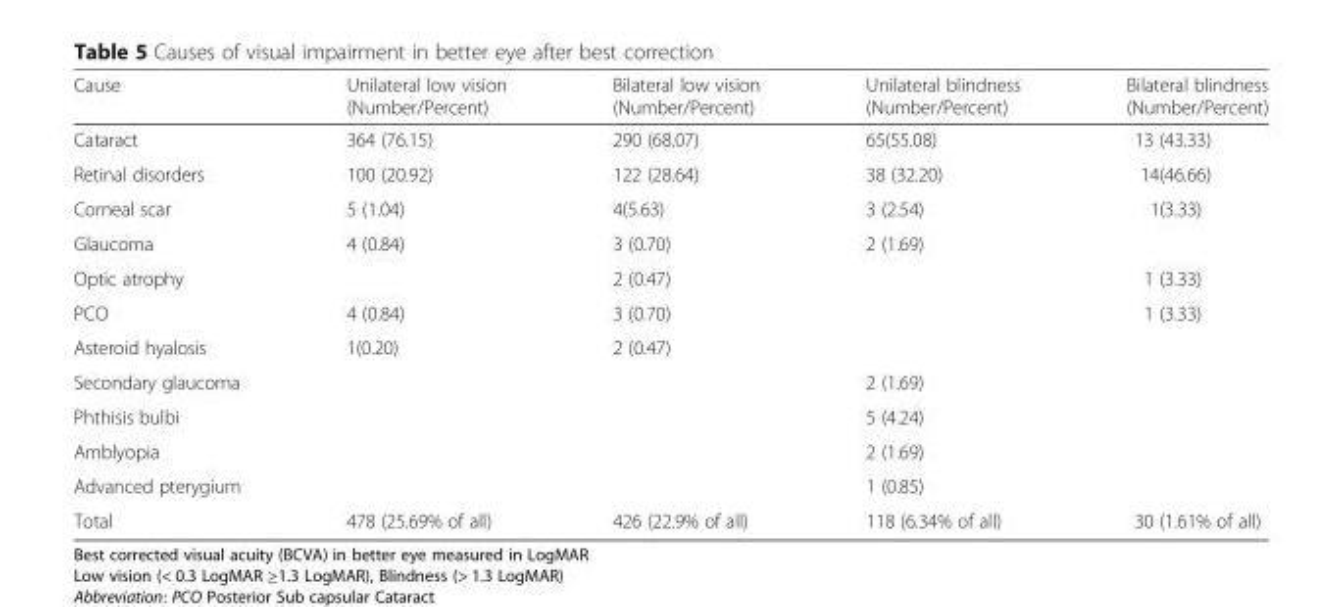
<table><thead><tr><td>Cause</td><td>Unilateral low vision (Number/Percent)</td><td>Bilateral low vision (Number/Percent)</td><td>Unilateral blindness (Number/Percent)</td><td>Bilateral blindness (Number/Percent)</td></tr></thead><tbody><tr><td>Cataract</td><td>364 (76.15)</td><td>290 (68.07)</td><td>65(55.08)</td><td>13 (43.33)</td></tr><tr><td>Retinal disorders</td><td>100 (20.92)</td><td>122 (28.64)</td><td>38 (32.20)</td><td>14(46.66)</td></tr><tr><td>Corneal scar</td><td>5 (1.04)</td><td>4(5.63)</td><td>3 (2.54)</td><td>1(3.33)</td></tr><tr><td>Glaucoma</td><td>4 (0.84)</td><td>3 (0.70)</td><td>2 (1.69)</td><td></td></tr><tr><td>Optic atrophy</td><td></td><td>2 (0.47)</td><td></td><td>1 (3.33)</td></tr><tr><td>PCO</td><td>4 (0.84)</td><td>3 (0.70)</td><td></td><td>1 (3.33)</td></tr><tr><td>Asteroid hyalosis</td><td>1(0.20)</td><td>2 (0.47)</td><td></td><td></td></tr><tr><td>Secondary glaucoma</td><td></td><td></td><td>2 (1.69)</td><td></td></tr><tr><td>Phthisis bulbi</td><td></td><td></td><td>5 (4.24)</td><td></td></tr><tr><td>Amblyopia</td><td></td><td></td><td>2 (1.69)</td><td></td></tr><tr><td>Advanced pterygium</td><td></td><td></td><td>1 (0.85)</td><td></td></tr><tr><td>Total</td><td>478 (25.69% of all)</td><td>426 (22.9% of all)</td><td>118 (6.34% of all)</td><td>30 (1.61% of all)</td></tr></tbody></table>